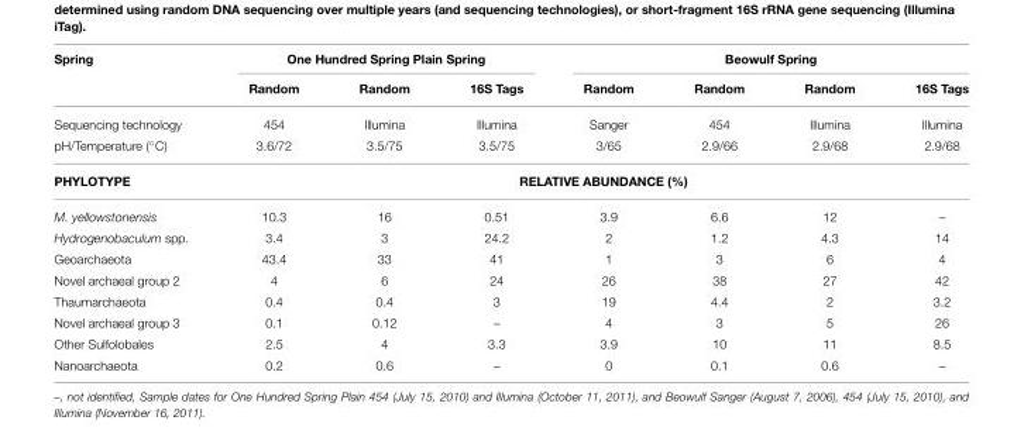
<table><thead><tr><td rowspan="2">Spring</td><td colspan="3">One Hundred Spring Plain Spring</td><td colspan="4">Beowulf Spring</td></tr><tr><td>Random</td><td>Random</td><td>16S Tags</td><td>Random</td><td>Random</td><td>Random</td><td>16S Tags</td></tr></thead><tbody><tr><td>Sequencing technology</td><td>454</td><td>Illumina</td><td>Illumina</td><td>Sanger</td><td>454</td><td>Illumina</td><td>Illumina</td></tr><tr><td>pH/Temperature (◦C)</td><td>3.6/72</td><td>3.5/75</td><td>3.5/75</td><td>3/65</td><td>2.9/66</td><td>2.9/68</td><td>2.9/68</td></tr><tr><td>PHYLOTYPE</td><td colspan="7">RELATIVE ABUNDANCE (%)</td></tr><tr><td>M. yellowstonensis</td><td>10.3</td><td>16</td><td>0.51</td><td>3.9</td><td>6.6</td><td>12</td><td>–</td></tr><tr><td>Hydrogenobaculum spp.</td><td>3.4</td><td>3</td><td>24.2</td><td>2</td><td>1.2</td><td>4.3</td><td>14</td></tr><tr><td>Geoarchaeota</td><td>43.4</td><td>33</td><td>41</td><td>1</td><td>3</td><td>6</td><td>4</td></tr><tr><td>Novel archaeal group 2</td><td>4</td><td>6</td><td>24</td><td>26</td><td>38</td><td>27</td><td>42</td></tr><tr><td>Thaumarchaeota</td><td>0.4</td><td>0.4</td><td>3</td><td>19</td><td>4.4</td><td>2</td><td>3.2</td></tr><tr><td>Novel archaeal group 3</td><td>0.1</td><td>0.12</td><td>–</td><td>4</td><td>3</td><td>5</td><td>26</td></tr><tr><td>Other Sulfolobales</td><td>2.5</td><td>4</td><td>3.3</td><td>3.9</td><td>10</td><td>11</td><td>8.5</td></tr><tr><td>Nanoarchaeota</td><td>0.2</td><td>0.6</td><td>–</td><td>0</td><td>0.1</td><td>0.6</td><td>–</td></tr></tbody></table>